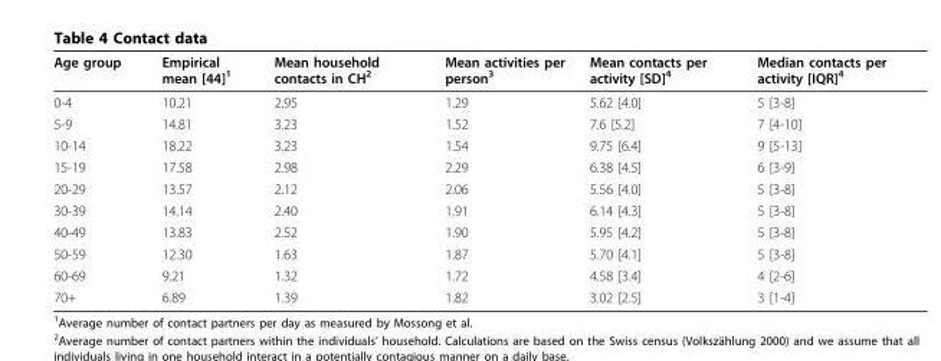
<table><thead><tr><td>Age group</td><td>Empirical mean [44]<sup>1</sup></td><td>Mean household contacts in CH<sup>2</sup></td><td>Mean activities per person<sup>3</sup></td><td>Mean contacts per activity [SD]<sup>4</sup></td><td>Median contacts per activity [IQR]<sup>4</sup></td></tr></thead><tbody><tr><td>0-4</td><td>10.21</td><td>2.95</td><td>1.29</td><td>5.62 [4.0]</td><td>5 [3-8]</td></tr><tr><td>5-9</td><td>14.81</td><td>3.23</td><td>1.52</td><td>7.6 [5.2]</td><td>7 [4-10]</td></tr><tr><td>10-14</td><td>18.22</td><td>3.23</td><td>1.54</td><td>9.75 [6.4]</td><td>9 [5-13]</td></tr><tr><td>15-19</td><td>17.58</td><td>2.98</td><td>2.29</td><td>6.38 [4.5]</td><td>6 [3-9]</td></tr><tr><td>20-29</td><td>13.57</td><td>2.12</td><td>2.06</td><td>5.56 [4.0]</td><td>5 [3-8]</td></tr><tr><td>30-39</td><td>14.14</td><td>2.40</td><td>1.91</td><td>6.14 [4.3]</td><td>5 [3-8]</td></tr><tr><td>40-49</td><td>13.83</td><td>2.52</td><td>1.90</td><td>5.95 [4.2]</td><td>5 [3-8]</td></tr><tr><td>50-59</td><td>12.30</td><td>1.63</td><td>1.87</td><td>5.70 [4.1]</td><td>5 [3-8]</td></tr><tr><td>60-69</td><td>9.21</td><td>1.32</td><td>1.72</td><td>4.58 [3.4]</td><td>4 [2-6]</td></tr><tr><td>70+</td><td>6.89</td><td>1.39</td><td>1.82</td><td>3.02 [2.5]</td><td>3 [1-4]</td></tr></tbody></table>